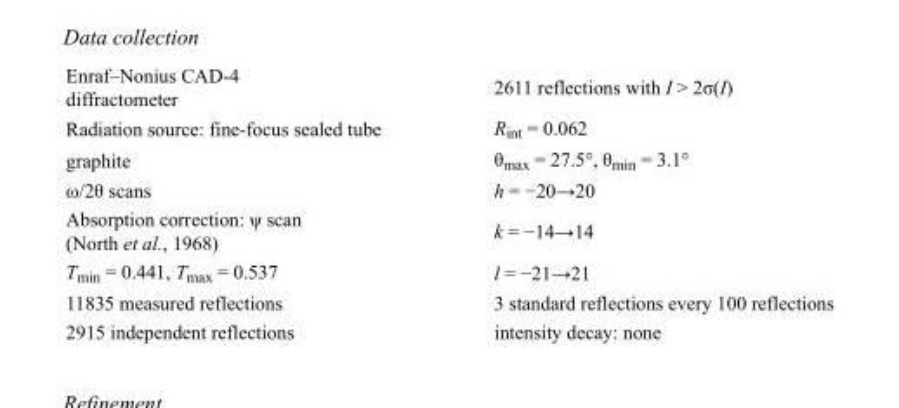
<table><tbody><tr><td>Enraf–Nonius CAD-4 diffractometer</td><td>2611 reflections with I &gt; 2σ(I)</td></tr><tr><td>Radiation source: fine-focus sealed tube</td><td>R<sub>int</sub> = 0.062</td></tr><tr><td>graphite</td><td>θ<sub>max</sub> = 27.5°, θ<sub>min</sub> = 3.1°</td></tr><tr><td>ω/2θ scans</td><td>h = −20→20</td></tr><tr><td>Absorption correction: ψ scan (North et al., 1968)</td><td>k = −14→14</td></tr><tr><td>T<sub>min</sub> = 0.441, T<sub>max</sub> = 0.537</td><td>l = −21→21</td></tr><tr><td>11835 measured reflections</td><td>3 standard reflections every 100 reflections</td></tr><tr><td>2915 independent reflections</td><td>intensity decay: none</td></tr></tbody></table>